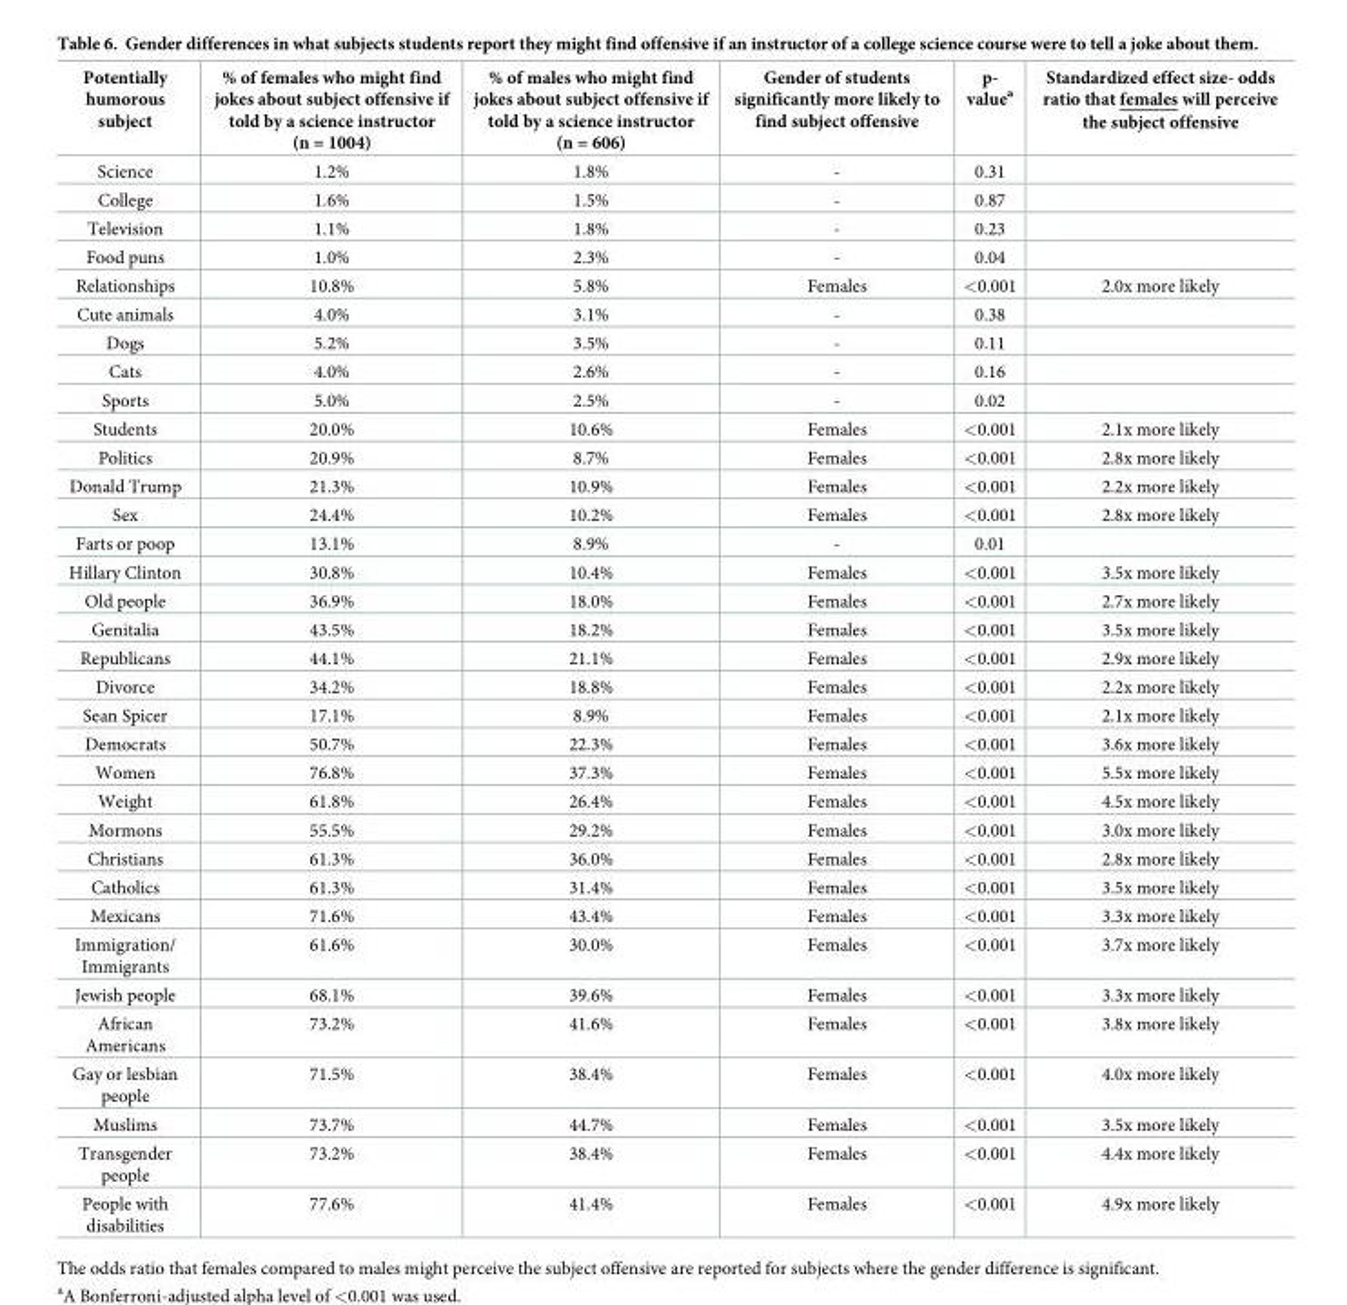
<table><thead><tr><td>Potentially humorous subject</td><td>% of females who might find jokes about subject offensive if told by a science instructor (n = 1004)</td><td>% of males who might find jokes about subject offensive if told by a science instructor (n = 606)</td><td>Gender of students significantly more likely to find subject offensive</td><td>p- value<sup>a</sup></td><td>Standardized effect size- odds ratio that females will perceive the subject offensive</td></tr></thead><tbody><tr><td>Science</td><td>1.2%</td><td>1.8%</td><td>-</td><td>0.31</td><td></td></tr><tr><td>College</td><td>1.6%</td><td>1.5%</td><td>-</td><td>0.87</td><td></td></tr><tr><td>Television</td><td>1.1%</td><td>1.8%</td><td>-</td><td>0.23</td><td></td></tr><tr><td>Food puns</td><td>1.0%</td><td>2.3%</td><td>-</td><td>0.04</td><td></td></tr><tr><td>Relationships</td><td>10.8%</td><td>5.8%</td><td>Females</td><td>&lt;0.001</td><td>2.0x more likely</td></tr><tr><td>Cute animals</td><td>4.0%</td><td>3.1%</td><td>-</td><td>0.38</td><td></td></tr><tr><td>Dogs</td><td>5.2%</td><td>3.5%</td><td>-</td><td>0.11</td><td></td></tr><tr><td>Cats</td><td>4.0%</td><td>2.6%</td><td>-</td><td>0.16</td><td></td></tr><tr><td>Sports</td><td>5.0%</td><td>2.5%</td><td>-</td><td>0.02</td><td></td></tr><tr><td>Students</td><td>20.0%</td><td>10.6%</td><td>Females</td><td>&lt;0.001</td><td>2.1x more likely</td></tr><tr><td>Politics</td><td>20.9%</td><td>8.7%</td><td>Females</td><td>&lt;0.001</td><td>2.8x more likely</td></tr><tr><td>Donald Trump</td><td>21.3%</td><td>10.9%</td><td>Females</td><td>&lt;0.001</td><td>2.2x more likely</td></tr><tr><td>Sex</td><td>24.4%</td><td>10.2%</td><td>Females</td><td>&lt;0.001</td><td>2.8x more likely</td></tr><tr><td>Farts or poop</td><td>13.1%</td><td>8.9%</td><td>-</td><td>0.01</td><td></td></tr><tr><td>Hillary Clinton</td><td>30.8%</td><td>10.4%</td><td>Females</td><td>&lt;0.001</td><td>3.5x more likely</td></tr><tr><td>Old people</td><td>36.9%</td><td>18.0%</td><td>Females</td><td>&lt;0.001</td><td>2.7x more likely</td></tr><tr><td>Genitalia</td><td>43.5%</td><td>18.2%</td><td>Females</td><td>&lt;0.001</td><td>3.5x more likely</td></tr><tr><td>Republicans</td><td>44.1%</td><td>21.1%</td><td>Females</td><td>&lt;0.001</td><td>2.9x more likely</td></tr><tr><td>Divorce</td><td>34.2%</td><td>18.8%</td><td>Females</td><td>&lt;0.001</td><td>2.2x more likely</td></tr><tr><td>Sean Spicer</td><td>17.1%</td><td>8.9%</td><td>Females</td><td>&lt;0.001</td><td>2.1x more likely</td></tr><tr><td>Democrats</td><td>50.7%</td><td>22.3%</td><td>Females</td><td>&lt;0.001</td><td>3.6x more likely</td></tr><tr><td>Women</td><td>76.8%</td><td>37.3%</td><td>Females</td><td>&lt;0.001</td><td>5.5x more likely</td></tr><tr><td>Weight</td><td>61.8%</td><td>26.4%</td><td>Females</td><td>&lt;0.001</td><td>4.5x more likely</td></tr><tr><td>Mormons</td><td>55.5%</td><td>29.2%</td><td>Females</td><td>&lt;0.001</td><td>3.0x more likely</td></tr><tr><td>Christians</td><td>61.3%</td><td>36.0%</td><td>Females</td><td>&lt;0.001</td><td>2.8x more likely</td></tr><tr><td>Catholics</td><td>61.3%</td><td>31.4%</td><td>Females</td><td>&lt;0.001</td><td>3.5x more likely</td></tr><tr><td>Mexicans</td><td>71.6%</td><td>43.4%</td><td>Females</td><td>&lt;0.001</td><td>3.3x more likely</td></tr><tr><td>Immigration/ Immigrants</td><td>61.6%</td><td>30.0%</td><td>Females</td><td>&lt;0.001</td><td>3.7x more likely</td></tr><tr><td>Jewish people</td><td>68.1%</td><td>39.6%</td><td>Females</td><td>&lt;0.001</td><td>3.3x more likely</td></tr><tr><td>African Americans</td><td>73.2%</td><td>41.6%</td><td>Females</td><td>&lt;0.001</td><td>3.8x more likely</td></tr><tr><td>Gay or lesbian people</td><td>71.5%</td><td>38.4%</td><td>Females</td><td>&lt;0.001</td><td>4.0x more likely</td></tr><tr><td>Muslims</td><td>73.7%</td><td>44.7%</td><td>Females</td><td>&lt;0.001</td><td>3.5x more likely</td></tr><tr><td>Transgender people</td><td>73.2%</td><td>38.4%</td><td>Females</td><td>&lt;0.001</td><td>4.4x more likely</td></tr><tr><td>People with disabilities</td><td>77.6%</td><td>41.4%</td><td>Females</td><td>&lt;0.001</td><td>4.9x more likely</td></tr></tbody></table>